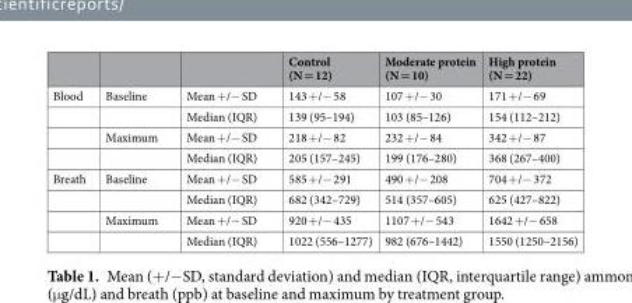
<table><thead><tr><td></td><td></td><td></td><td>Control (N = 12)</td><td>Moderate protein (N = 10)</td><td>High protein (N = 22)</td></tr></thead><tbody><tr><td rowspan="4">Blood</td><td>Baseline</td><td>Mean +/− SD</td><td>143 +/− 58</td><td>107 +/− 30</td><td>171 +/− 69</td></tr><tr><td></td><td>Median (IQR)</td><td>139 (95–194)</td><td>103 (85–126)</td><td>154 (112–212)</td></tr><tr><td>Maximum</td><td>Mean +/− SD</td><td>218 +/− 82</td><td>232 +/− 84</td><td>342 +/− 87</td></tr><tr><td></td><td>Median (IQR)</td><td>205 (157–245)</td><td>199 (176–280)</td><td>368 (267–400)</td></tr><tr><td rowspan="4">Breath</td><td>Baseline</td><td>Mean +/− SD</td><td>585 +/− 291</td><td>490 +/− 208</td><td>704 +/− 372</td></tr><tr><td></td><td>Median (IQR)</td><td>682 (342–729)</td><td>514 (357–605)</td><td>625 (427–822)</td></tr><tr><td>Maximum</td><td>Mean +/− SD</td><td>920 +/− 435</td><td>1107 +/− 543</td><td>1642 +/− 658</td></tr><tr><td></td><td>Median (IQR)</td><td>1022 (556–1277)</td><td>982 (676–1442)</td><td>1550 (1250–2156)</td></tr></tbody></table>